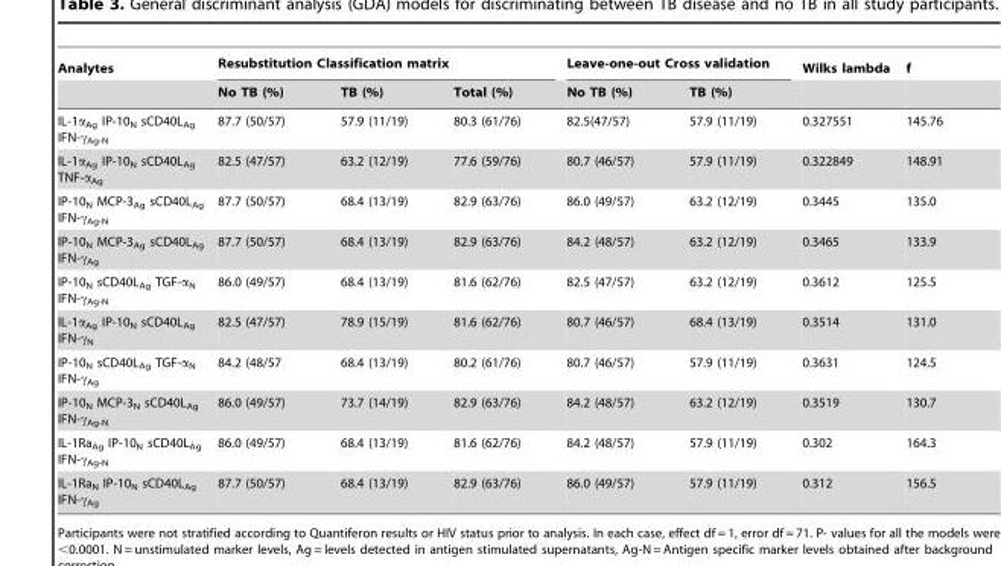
<table><thead><tr><td rowspan="2">Analytes</td><td colspan="3">Resubstitution Classification matrix</td><td colspan="2">Leave-one-out Cross validation</td><td rowspan="2">Wilks lambda</td><td rowspan="2">f</td></tr><tr><td>No TB (%)</td><td>TB (%)</td><td>Total (%)</td><td>No TB (%)</td><td>TB (%)</td></tr></thead><tbody><tr><td>IL-1α<sub>Ag</sub> IP-10<sub>N</sub> sCD40L<sub>Ag</sub> IFN-γ<sub>Ag-N</sub></td><td>87.7 (50/57)</td><td>57.9 (11/19)</td><td>80.3 (61/76)</td><td>82.5(47/57)</td><td>57.9 (11/19)</td><td>0.327551</td><td>145.76</td></tr><tr><td>IL-1α<sub>Ag</sub> IP-10<sub>N</sub> sCD40L<sub>Ag</sub> TNF-α<sub>Ag</sub></td><td>82.5 (47/57)</td><td>63.2 (12/19)</td><td>77.6 (59/76)</td><td>80.7 (46/57)</td><td>57.9 (11/19)</td><td>0.322849</td><td>148.91</td></tr><tr><td>IP-10<sub>N</sub> MCP-3<sub>Ag</sub> sCD40L<sub>Ag</sub> IFN-γ<sub>Ag-N</sub></td><td>87.7 (50/57)</td><td>68.4 (13/19)</td><td>82.9 (63/76)</td><td>86.0 (49/57)</td><td>63.2 (12/19)</td><td>0.3445</td><td>135.0</td></tr><tr><td>IP-10<sub>N</sub> MCP-3<sub>Ag</sub> sCD40L<sub>Ag</sub> IFN-γ<sub>Ag</sub></td><td>87.7 (50/57)</td><td>68.4 (13/19)</td><td>82.9 (63/76)</td><td>84.2 (48/57)</td><td>63.2 (12/19)</td><td>0.3465</td><td>133.9</td></tr><tr><td>IP-10<sub>N</sub> sCD40L<sub>Ag</sub> TGF-α<sub>N</sub> IFN-γ<sub>Ag-N</sub></td><td>86.0 (49/57)</td><td>68.4 (13/19)</td><td>81.6 (62/76)</td><td>82.5 (47/57)</td><td>63.2 (12/19)</td><td>0.3612</td><td>125.5</td></tr><tr><td>IL-1α<sub>Ag</sub> IP-10<sub>N</sub> sCD40L<sub>Ag</sub> IFN-γ<sub>N</sub></td><td>82.5 (47/57)</td><td>78.9 (15/19)</td><td>81.6 (62/76)</td><td>80.7 (46/57)</td><td>68.4 (13/19)</td><td>0.3514</td><td>131.0</td></tr><tr><td>IP-10<sub>N</sub> sCD40L<sub>Ag</sub> TGF-α<sub>N</sub> IFN-γ<sub>Ag</sub></td><td>84.2 (48/57</td><td>68.4 (13/19)</td><td>80.2 (61/76)</td><td>80.7 (46/57)</td><td>57.9 (11/19)</td><td>0.3631</td><td>124.5</td></tr><tr><td>IP-10<sub>N</sub> MCP-3<sub>N</sub> sCD40L<sub>Ag</sub> IFN-γ<sub>Ag-N</sub></td><td>86.0 (49/57)</td><td>73.7 (14/19)</td><td>82.9 (63/76)</td><td>84.2 (48/57)</td><td>63.2 (12/19)</td><td>0.3519</td><td>130.7</td></tr><tr><td>IL-1Ra<sub>Ag</sub> IP-10<sub>N</sub> sCD40L<sub>Ag</sub> IFN-γ<sub>Ag-N</sub></td><td>86.0 (49/57)</td><td>68.4 (13/19)</td><td>81.6 (62/76)</td><td>84.2 (48/57)</td><td>57.9 (11/19)</td><td>0.302</td><td>164.3</td></tr><tr><td>IL-1Ra<sub>N</sub> IP-10<sub>N</sub> sCD40L<sub>Ag</sub> IFN-γ<sub>Ag</sub></td><td>87.7 (50/57)</td><td>68.4 (13/19)</td><td>82.9 (63/76)</td><td>86.0 (49/57)</td><td>57.9 (11/19)</td><td>0.312</td><td>156.5</td></tr></tbody></table>